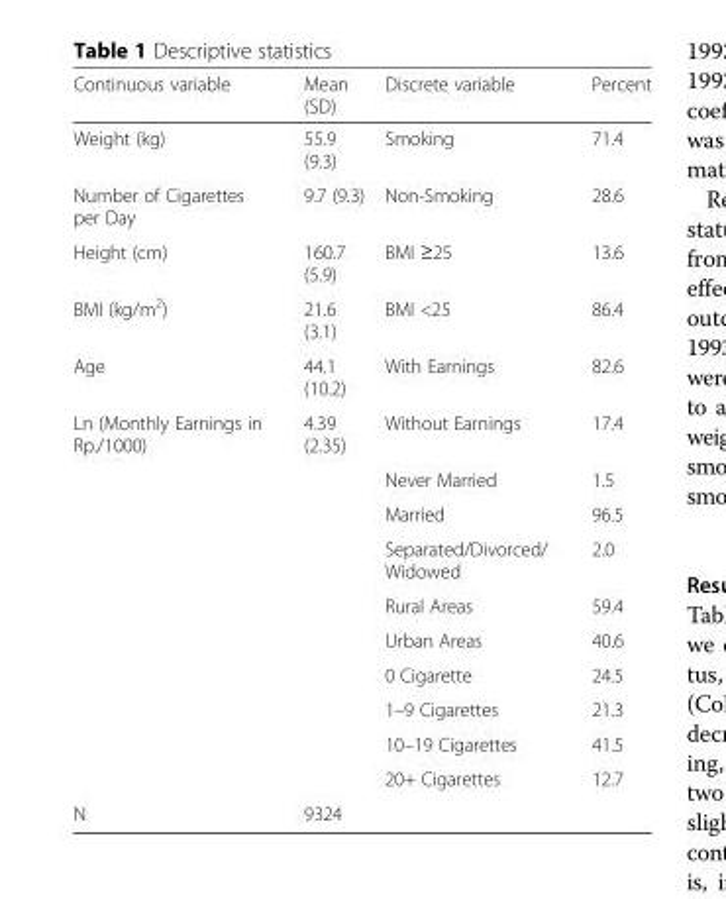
<table><thead><tr><td>Continuous variable</td><td>Mean (SD)</td><td>Discrete variable</td><td>Percent</td></tr></thead><tbody><tr><td>Weight (kg)</td><td>55.9 (9.3)</td><td>Smoking</td><td>71.4</td></tr><tr><td>Number of Cigarettes per Day</td><td>9.7 (9.3)</td><td>Non-Smoking</td><td>28.6</td></tr><tr><td>Height (cm)</td><td>160.7 (5.9)</td><td>BMI ≥25</td><td>13.6</td></tr><tr><td>BMI (kg/m<sup>2</sup>)</td><td>21.6 (3.1)</td><td>BMI &lt;25</td><td>86.4</td></tr><tr><td>Age</td><td>44.1 (10.2)</td><td>With Earnings</td><td>82.6</td></tr><tr><td rowspan="10">Ln (Monthly Earnings in Rp./1000)</td><td>4.39 (2.35)</td><td>Without Earnings</td><td>17.4</td></tr><tr><td></td><td>Never Married</td><td>1.5</td></tr><tr><td></td><td>Married</td><td>96.5</td></tr><tr><td></td><td>Separated/Divorced/ Widowed</td><td>2.0</td></tr><tr><td></td><td>Rural Areas</td><td>59.4</td></tr><tr><td></td><td>Urban Areas</td><td>40.6</td></tr><tr><td></td><td>0 Cigarette</td><td>24.5</td></tr><tr><td></td><td>1–9 Cigarettes</td><td>21.3</td></tr><tr><td></td><td>10–19 Cigarettes</td><td>41.5</td></tr><tr><td></td><td>20+ Cigarettes</td><td>12.7</td></tr><tr><td>N</td><td>9324</td><td></td><td></td></tr></tbody></table>